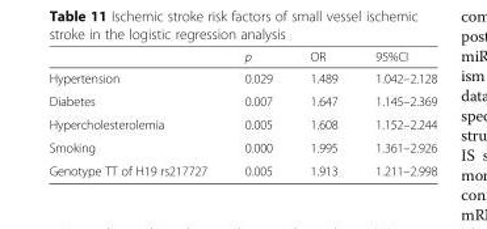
<table><thead><tr><td></td><td>p</td><td>OR</td><td>95%CI</td></tr></thead><tbody><tr><td>Hypertension</td><td>0.029</td><td>1.489</td><td>1.042–2.128</td></tr><tr><td>Diabetes</td><td>0.007</td><td>1.647</td><td>1.145–2.369</td></tr><tr><td>Hypercholesterolemia</td><td>0.005</td><td>1.608</td><td>1.152–2.244</td></tr><tr><td>Smoking</td><td>0.000</td><td>1.995</td><td>1.361–2.926</td></tr><tr><td>Genotype TT of H19 rs217727</td><td>0.005</td><td>1.913</td><td>1.211–2.998</td></tr></tbody></table>